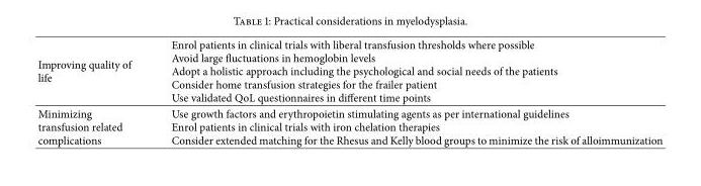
<table><tbody><tr><td>Improving quality of life</td><td>Enrol patients in clinical trials with liberal transfusion thresholds where possible Avoid large fluctuations in hemoglobin levels Adopt a holistic approach including the psychological and social needs of the patients Consider home transfusion strategies for the frailer patient Use validated QoL questionnaires in different time points</td></tr><tr><td>Minimizing transfusion related complications</td><td>Use growth factors and erythropoietin stimulating agents as per international guidelines Enrol patients in clinical trials with iron chelation therapies Consider extended matching for the Rhesus and Kelly blood groups to minimize the risk of alloimmunization</td></tr></tbody></table>